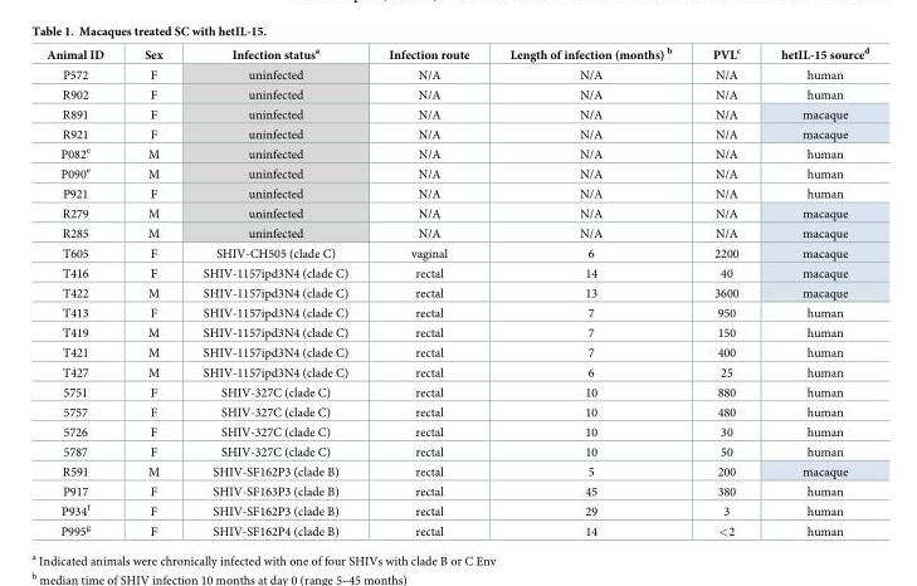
<table><thead><tr><td>Animal ID</td><td>Sex</td><td>Infection status<sup>a</sup></td><td>Infection route</td><td>Length of infection (months) <sup>b</sup></td><td>PVL<sup>c</sup></td><td>hetIL-15 source<sup>d</sup></td></tr></thead><tbody><tr><td>P572</td><td>F</td><td>uninfected</td><td>N/A</td><td>N/A</td><td>N/A</td><td>human</td></tr><tr><td>R902</td><td>F</td><td>uninfected</td><td>N/A</td><td>N/A</td><td>N/A</td><td>human</td></tr><tr><td>R891</td><td>F</td><td>uninfected</td><td>N/A</td><td>N/A</td><td>N/A</td><td>macaque</td></tr><tr><td>R921</td><td>F</td><td>uninfected</td><td>N/A</td><td>N/A</td><td>N/A</td><td>macaque</td></tr><tr><td>P082<sup>e</sup></td><td>M</td><td>uninfected</td><td>N/A</td><td>N/A</td><td>N/A</td><td>human</td></tr><tr><td>P090<sup>e</sup></td><td>M</td><td>uninfected</td><td>N/A</td><td>N/A</td><td>N/A</td><td>human</td></tr><tr><td>P921</td><td>F</td><td>uninfected</td><td>N/A</td><td>N/A</td><td>N/A</td><td>human</td></tr><tr><td>R279</td><td>M</td><td>uninfected</td><td>N/A</td><td>N/A</td><td>N/A</td><td>macaque</td></tr><tr><td>R285</td><td>M</td><td>uninfected</td><td>N/A</td><td>N/A</td><td>N/A</td><td>macaque</td></tr><tr><td>T605</td><td>F</td><td>SHIV-CH505 (clade C)</td><td>vaginal</td><td>6</td><td>2200</td><td>macaque</td></tr><tr><td>T416</td><td>F</td><td>SHIV-1157ipd3N4 (clade C)</td><td>rectal</td><td>14</td><td>40</td><td>macaque</td></tr><tr><td>T422</td><td>M</td><td>SHIV-1157ipd3N4 (clade C)</td><td>rectal</td><td>13</td><td>3600</td><td>macaque</td></tr><tr><td>T413</td><td>F</td><td>SHIV-1157ipd3N4 (clade C)</td><td>rectal</td><td>7</td><td>950</td><td>human</td></tr><tr><td>T419</td><td>M</td><td>SHIV-1157ipd3N4 (clade C)</td><td>rectal</td><td>7</td><td>150</td><td>human</td></tr><tr><td>T421</td><td>M</td><td>SHIV-1157ipd3N4 (clade C)</td><td>rectal</td><td>7</td><td>400</td><td>human</td></tr><tr><td>T427</td><td>M</td><td>SHIV-1157ipd3N4 (clade C)</td><td>rectal</td><td>6</td><td>25</td><td>human</td></tr><tr><td>5751</td><td>F</td><td>SHIV-327C (clade C)</td><td>rectal</td><td>10</td><td>880</td><td>human</td></tr><tr><td>5757</td><td>F</td><td>SHIV-327C (clade C)</td><td>rectal</td><td>10</td><td>480</td><td>human</td></tr><tr><td>5726</td><td>F</td><td>SHIV-327C (clade C)</td><td>rectal</td><td>10</td><td>30</td><td>human</td></tr><tr><td>5787</td><td>F</td><td>SHIV-327C (clade C)</td><td>rectal</td><td>10</td><td>50</td><td>human</td></tr><tr><td>R591</td><td>M</td><td>SHIV-SF162P3 (clade B)</td><td>rectal</td><td>5</td><td>200</td><td>macaque</td></tr><tr><td>P917</td><td>F</td><td>SHIV-SF163P3 (clade B)</td><td>rectal</td><td>45</td><td>380</td><td>human</td></tr><tr><td>P934<sup>f</sup></td><td>F</td><td>SHIV-SF162P3 (clade B)</td><td>rectal</td><td>29</td><td>3</td><td>human</td></tr><tr><td>P995<sup>g</sup></td><td>F</td><td>SHIV-SF162P4 (clade B)</td><td>rectal</td><td>14</td><td>&lt;2</td><td>human</td></tr></tbody></table>